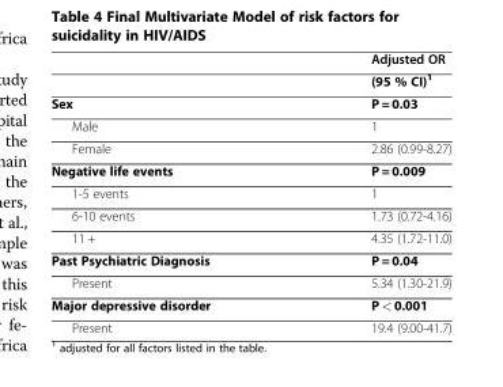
<table><thead><tr><td></td><td>Adjusted OR</td></tr></thead><tbody><tr><td></td><td>(95 % CI)<sup>1</sup></td></tr><tr><td>Sex</td><td>P = 0.03</td></tr><tr><td>Male</td><td>1</td></tr><tr><td>Female</td><td>2.86 (0.99-8.27)</td></tr><tr><td>Negative life events</td><td>P = 0.009</td></tr><tr><td>1-5 events</td><td>1</td></tr><tr><td>6-10 events</td><td>1.73 (0.72-4.16)</td></tr><tr><td>11 +</td><td>4.35 (1.72-11.0)</td></tr><tr><td>Past Psychiatric Diagnosis</td><td>P = 0.04</td></tr><tr><td>Present</td><td>5.34 (1.30-21.9)</td></tr><tr><td>Major depressive disorder</td><td>P &lt; 0.001</td></tr><tr><td>Present</td><td>19.4 (9.00-41.7)</td></tr></tbody></table>